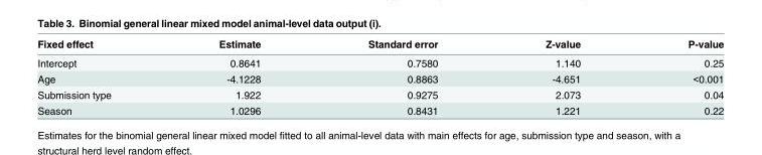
<table><thead><tr><td>Fixed effect</td><td>Estimate</td><td>Standard error</td><td>Z-value</td><td>P-value</td></tr></thead><tbody><tr><td>Intercept</td><td>0.8641</td><td>0.7580</td><td>1.140</td><td>0.25</td></tr><tr><td>Age</td><td>-4.1228</td><td>0.8863</td><td>-4.651</td><td>&lt;0.001</td></tr><tr><td>Submission type</td><td>1.922</td><td>0.9275</td><td>2.073</td><td>0.04</td></tr><tr><td>Season</td><td>1.0296</td><td>0.8431</td><td>1.221</td><td>0.22</td></tr></tbody></table>